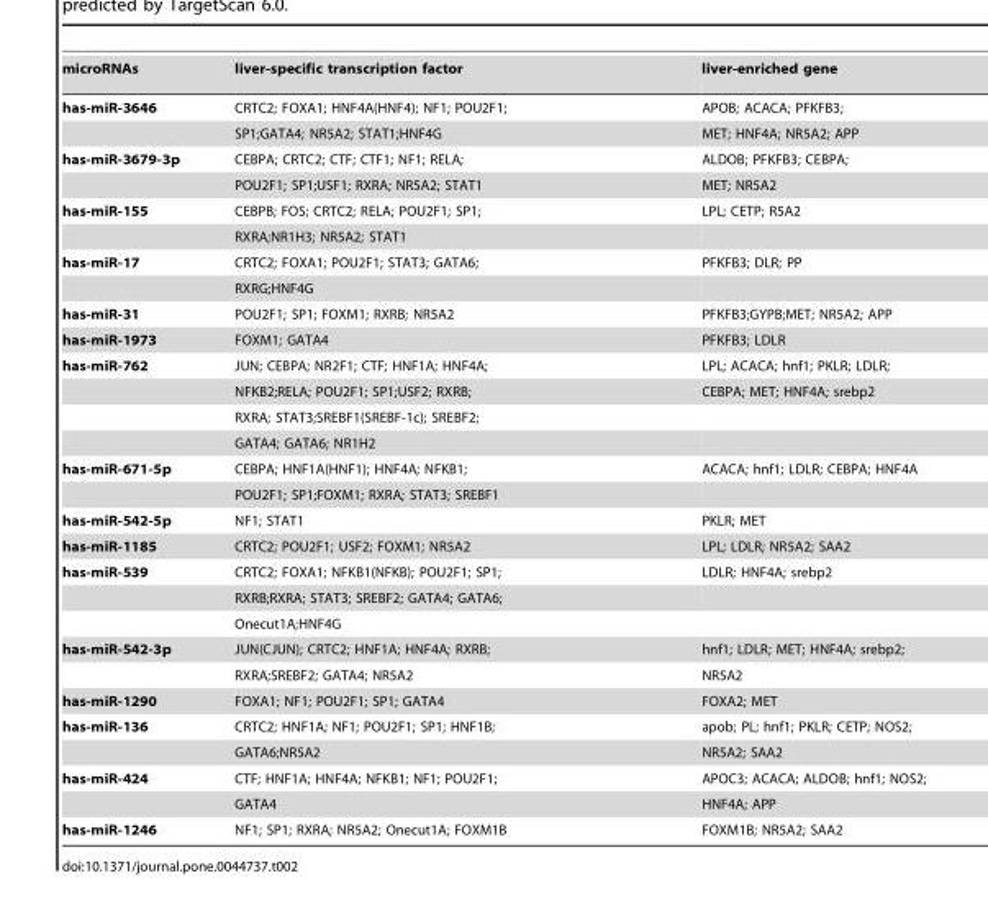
<table><tbody><tr><td>microRNAs</td><td>liver-specific transcription factor</td><td>liver-enriched gene</td></tr><tr><td rowspan="2">has-miR-3646</td><td>CRTC2; FOXA1; HNF4A(HNF4); NF1; POU2F1;</td><td>APOB; ACACA; PFKFB3;</td></tr><tr><td>SP1;GATA4; NR5A2; STAT1;HNF4G</td><td>MET; HNF4A; NR5A2; APP</td></tr><tr><td rowspan="2">has-miR-3679-3p</td><td>CEBPA; CRTC2; CTF; CTF1; NF1; RELA;</td><td>ALDOB; PFKFB3; CEBPA;</td></tr><tr><td>POU2F1; SP1;USF1; RXRA; NR5A2; STAT1</td><td>MET; NR5A2</td></tr><tr><td rowspan="2">has-miR-155</td><td>CEBPB; FOS; CRTC2; RELA; POU2F1; SP1;</td><td>LPL; CETP; R5A2</td></tr><tr><td>RXRA;NR1H3; NR5A2; STAT1</td><td></td></tr><tr><td rowspan="2">has-miR-17</td><td>CRTC2; FOXA1; POU2F1; STAT3; GATA6;</td><td>PFKFB3; DLR; PP</td></tr><tr><td>RXRG;HNF4G</td><td></td></tr><tr><td>has-miR-31</td><td>POU2F1; SP1; FOXM1; RXRB; NR5A2</td><td>PFKFB3;GYPB;MET; NR5A2; APP</td></tr><tr><td>has-miR-1973</td><td>FOXM1; GATA4</td><td>PFKFB3; LDLR</td></tr><tr><td rowspan="4">has-miR-762</td><td>JUN; CEBPA; NR2F1; CTF; HNF1A; HNF4A;</td><td>LPL; ACACA; hnf1; PKLR; LDLR;</td></tr><tr><td>NFKB2;RELA; POU2F1; SP1;USF2; RXRB;</td><td>CEBPA; MET; HNF4A; srebp2</td></tr><tr><td>RXRA; STAT3;SREBF1(SREBF-1c); SREBF2;</td><td></td></tr><tr><td>GATA4; GATA6; NR1H2</td><td></td></tr><tr><td rowspan="2">has-miR-671-5p</td><td>CEBPA; HNF1A(HNF1); HNF4A; NFKB1;</td><td>ACACA; hnf1; LDLR; CEBPA; HNF4A</td></tr><tr><td>POU2F1; SP1;FOXM1; RXRA; STAT3; SREBF1</td><td></td></tr><tr><td>has-miR-542-5p</td><td>NF1; STAT1</td><td>PKLR; MET</td></tr><tr><td>has-miR-1185</td><td>CRTC2; POU2F1; USF2; FOXM1; NR5A2</td><td>LPL; LDLR; NR5A2; SAA2</td></tr><tr><td rowspan="3">has-miR-539</td><td>CRTC2; FOXA1; NFKB1(NFKB); POU2F1; SP1;</td><td>LDLR; HNF4A; srebp2</td></tr><tr><td>RXRB;RXRA; STAT3; SREBF2; GATA4; GATA6;</td><td></td></tr><tr><td>Onecut1A;HNF4G</td><td></td></tr><tr><td rowspan="2">has-miR-542-3p</td><td>JUN(CJUN); CRTC2; HNF1A; HNF4A; RXRB;</td><td>hnf1; LDLR; MET; HNF4A; srebp2;</td></tr><tr><td>RXRA;SREBF2; GATA4; NR5A2</td><td>NR5A2</td></tr><tr><td>has-miR-1290</td><td>FOXA1; NF1; POU2F1; SP1; GATA4</td><td>FOXA2; MET</td></tr><tr><td rowspan="2">has-miR-136</td><td>CRTC2; HNF1A; NF1; POU2F1; SP1; HNF1B;</td><td>apob; PL; hnf1; PKLR; CETP; NOS2;</td></tr><tr><td>GATA6;NR5A2</td><td>NR5A2; SAA2</td></tr><tr><td rowspan="2">has-miR-424</td><td>CTF; HNF1A; HNF4A; NFKB1; NF1; POU2F1;</td><td>APOC3; ACACA; ALDOB; hnf1; NOS2;</td></tr><tr><td>GATA4</td><td>HNF4A; APP</td></tr><tr><td>has-miR-1246</td><td>NF1; SP1; RXRA; NR5A2; Onecut1A; FOXM1B</td><td>FOXM1B; NR5A2; SAA2</td></tr></tbody></table>